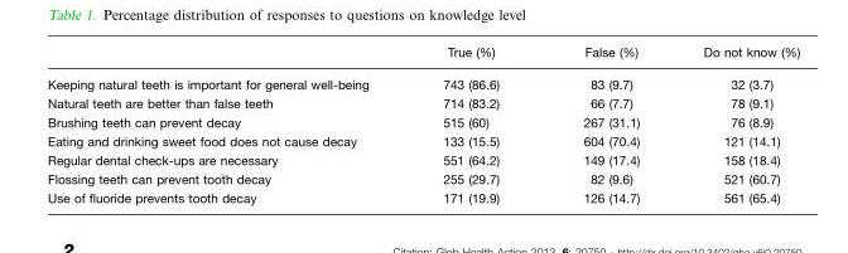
<table><thead><tr><td></td><td>True (%)</td><td>False (%)</td><td>Do not know (%)</td></tr></thead><tbody><tr><td>Keeping natural teeth is important for general well-being</td><td>743 (86.6)</td><td>83 (9.7)</td><td>32 (3.7)</td></tr><tr><td>Natural teeth are better than false teeth</td><td>714 (83.2)</td><td>66 (7.7)</td><td>78 (9.1)</td></tr><tr><td>Brushing teeth can prevent decay</td><td>515 (60)</td><td>267 (31.1)</td><td>76 (8.9)</td></tr><tr><td>Eating and drinking sweet food does not cause decay</td><td>133 (15.5)</td><td>604 (70.4)</td><td>121 (14.1)</td></tr><tr><td>Regular dental check-ups are necessary</td><td>551 (64.2)</td><td>149 (17.4)</td><td>158 (18.4)</td></tr><tr><td>Flossing teeth can prevent tooth decay</td><td>255 (29.7)</td><td>82 (9.6)</td><td>521 (60.7)</td></tr><tr><td>Use of fluoride prevents tooth decay</td><td>171 (19.9)</td><td>126 (14.7)</td><td>561 (65.4)</td></tr></tbody></table>